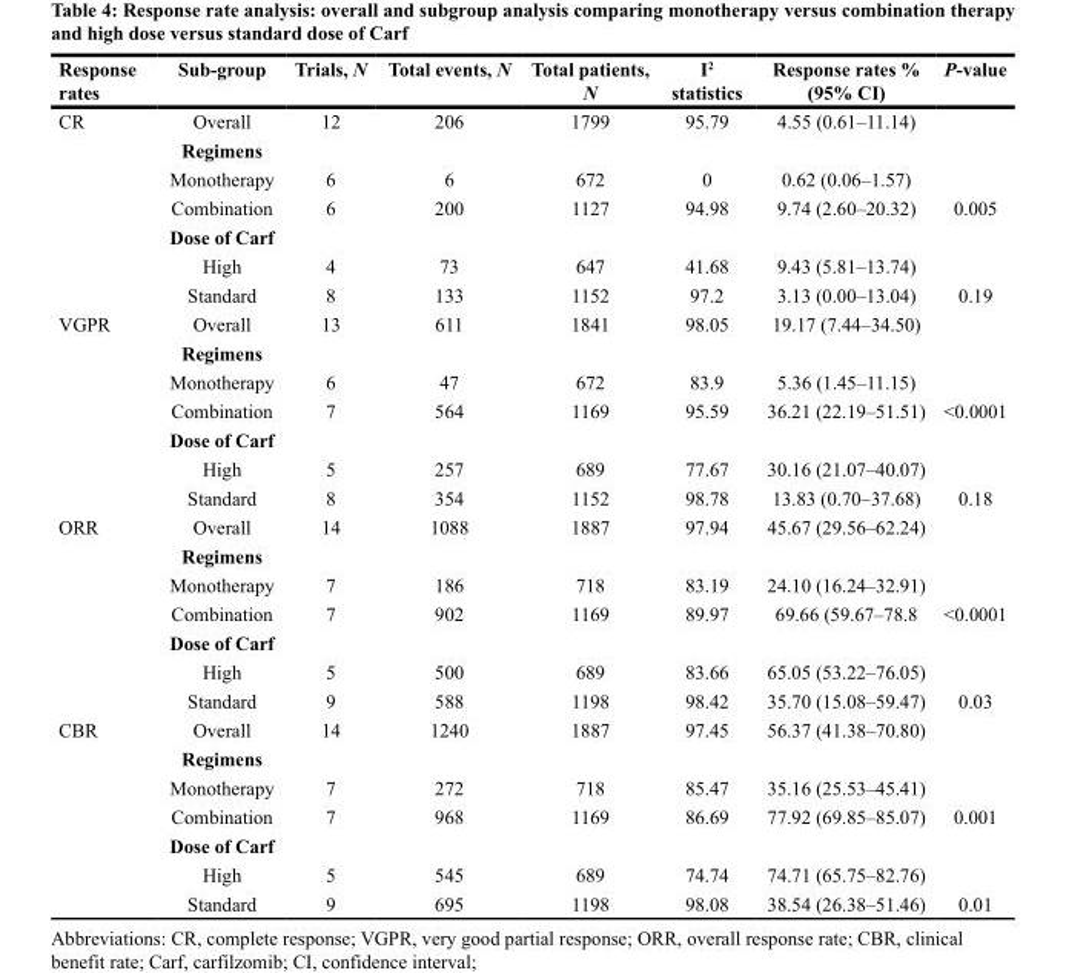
<table><thead><tr><td>Response rates</td><td>Sub-group</td><td>Trials, N</td><td>Total events, N</td><td>Total patients, N</td><td>I<sup>2</sup> statistics</td><td>Response rates % (95% CI)</td><td>P-value</td></tr></thead><tbody><tr><td rowspan="7">CR</td><td>Overall</td><td>12</td><td>206</td><td>1799</td><td>95.79</td><td>4.55 (0.61–11.14)</td><td></td></tr><tr><td>Regimens</td><td></td><td></td><td></td><td></td><td></td><td></td></tr><tr><td>Monotherapy</td><td>6</td><td>6</td><td>672</td><td>0</td><td>0.62 (0.06–1.57)</td><td></td></tr><tr><td>Combination</td><td>6</td><td>200</td><td>1127</td><td>94.98</td><td>9.74 (2.60–20.32)</td><td>0.005</td></tr><tr><td>Dose of Carf</td><td></td><td></td><td></td><td></td><td></td><td></td></tr><tr><td>High</td><td>4</td><td>73</td><td>647</td><td>41.68</td><td>9.43 (5.81–13.74)</td><td></td></tr><tr><td>Standard</td><td>8</td><td>133</td><td>1152</td><td>97.2</td><td>3.13 (0.00–13.04)</td><td>0.19</td></tr><tr><td rowspan="7">VGPR</td><td>Overall</td><td>13</td><td>611</td><td>1841</td><td>98.05</td><td>19.17 (7.44–34.50)</td><td></td></tr><tr><td>Regimens</td><td></td><td></td><td></td><td></td><td></td><td></td></tr><tr><td>Monotherapy</td><td>6</td><td>47</td><td>672</td><td>83.9</td><td>5.36 (1.45–11.15)</td><td></td></tr><tr><td>Combination</td><td>7</td><td>564</td><td>1169</td><td>95.59</td><td>36.21 (22.19–51.51)</td><td>&lt;0.0001</td></tr><tr><td>Dose of Carf</td><td></td><td></td><td></td><td></td><td></td><td></td></tr><tr><td>High</td><td>5</td><td>257</td><td>689</td><td>77.67</td><td>30.16 (21.07–40.07)</td><td></td></tr><tr><td>Standard</td><td>8</td><td>354</td><td>1152</td><td>98.78</td><td>13.83 (0.70–37.68)</td><td>0.18</td></tr><tr><td rowspan="7">ORR</td><td>Overall</td><td>14</td><td>1088</td><td>1887</td><td>97.94</td><td>45.67 (29.56–62.24)</td><td></td></tr><tr><td>Regimens</td><td></td><td></td><td></td><td></td><td></td><td></td></tr><tr><td>Monotherapy</td><td>7</td><td>186</td><td>718</td><td>83.19</td><td>24.10 (16.24–32.91)</td><td></td></tr><tr><td>Combination</td><td>7</td><td>902</td><td>1169</td><td>89.97</td><td>69.66 (59.67–78.8</td><td>&lt;0.0001</td></tr><tr><td>Dose of Carf</td><td></td><td></td><td></td><td></td><td></td><td></td></tr><tr><td>High</td><td>5</td><td>500</td><td>689</td><td>83.66</td><td>65.05 (53.22–76.05)</td><td></td></tr><tr><td>Standard</td><td>9</td><td>588</td><td>1198</td><td>98.42</td><td>35.70 (15.08–59.47)</td><td>0.03</td></tr><tr><td rowspan="7">CBR</td><td>Overall</td><td>14</td><td>1240</td><td>1887</td><td>97.45</td><td>56.37 (41.38–70.80)</td><td></td></tr><tr><td>Regimens</td><td></td><td></td><td></td><td></td><td></td><td></td></tr><tr><td>Monotherapy</td><td>7</td><td>272</td><td>718</td><td>85.47</td><td>35.16 (25.53–45.41)</td><td></td></tr><tr><td>Combination</td><td>7</td><td>968</td><td>1169</td><td>86.69</td><td>77.92 (69.85–85.07)</td><td>0.001</td></tr><tr><td>Dose of Carf</td><td></td><td></td><td></td><td></td><td></td><td></td></tr><tr><td>High</td><td>5</td><td>545</td><td>689</td><td>74.74</td><td>74.71 (65.75–82.76)</td><td></td></tr><tr><td>Standard</td><td>9</td><td>695</td><td>1198</td><td>98.08</td><td>38.54 (26.38–51.46)</td><td>0.01</td></tr></tbody></table>